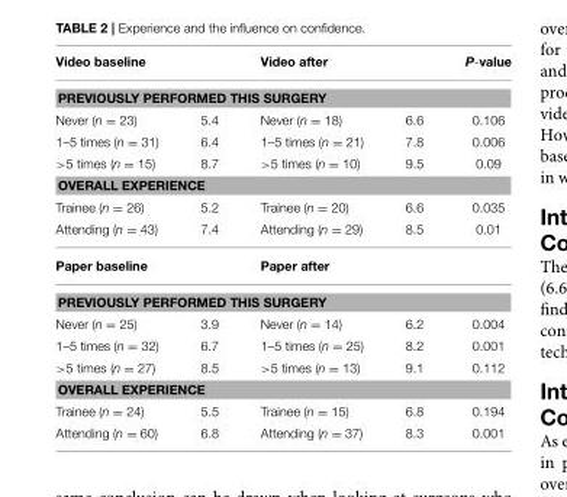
<table><thead><tr><td>Video baseline</td><td></td><td>Video after</td><td></td><td>P-value</td></tr></thead><tbody><tr><td colspan="5">PREVIOUSLY PERFORMED THIS SURGERY</td></tr><tr><td>Never (n = 23)</td><td>5.4</td><td>Never (n = 18)</td><td>6.6</td><td>0.106</td></tr><tr><td>1–5 times (n = 31)</td><td>6.4</td><td>1–5 times (n = 21)</td><td>7.8</td><td>0.006</td></tr><tr><td>&gt;5 times (n = 15)</td><td>8.7</td><td>&gt;5 times (n = 10)</td><td>9.5</td><td>0.09</td></tr><tr><td colspan="5">OVERALL EXPERIENCE</td></tr><tr><td>Trainee (n = 26)</td><td>5.2</td><td>Trainee (n = 20)</td><td>6.6</td><td>0.035</td></tr><tr><td>Attending (n = 43)</td><td>7.4</td><td>Attending (n = 29)</td><td>8.5</td><td>0.01</td></tr><tr><td>Paper baseline</td><td></td><td>Paper after</td><td></td><td></td></tr><tr><td colspan="5">PREVIOUSLY PERFORMED THIS SURGERY</td></tr><tr><td>Never (n = 25)</td><td>3.9</td><td>Never (n = 14)</td><td>6.2</td><td>0.004</td></tr><tr><td>1–5 times (n = 32)</td><td>6.7</td><td>1–5 times (n = 25)</td><td>8.2</td><td>0.001</td></tr><tr><td>&gt;5 times (n = 27)</td><td>8.5</td><td>&gt;5 times (n = 13)</td><td>9.1</td><td>0.112</td></tr><tr><td colspan="5">OVERALL EXPERIENCE</td></tr><tr><td>Trainee (n = 24)</td><td>5.5</td><td>Trainee (n = 15)</td><td>6.8</td><td>0.194</td></tr><tr><td>Attending (n = 60)</td><td>6.8</td><td>Attending (n = 37)</td><td>8.3</td><td>0.001</td></tr></tbody></table>